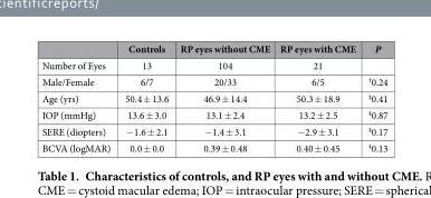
<table><thead><tr><td></td><td>Controls</td><td>RP eyes without CME</td><td>RP eyes with CME</td><td>P</td></tr></thead><tbody><tr><td>Number of Eyes</td><td>13</td><td>104</td><td>21</td><td></td></tr><tr><td>Male/Female</td><td>6/7</td><td>20/33</td><td>6/5</td><td><sup>†</sup>0.24</td></tr><tr><td>Age (yrs)</td><td>50.4 ± 13.6</td><td>46.9 ± 14.4</td><td>50.3 ± 18.9</td><td><sup>‡</sup>0.41</td></tr><tr><td>IOP (mmHg)</td><td>13.6 ± 3.0</td><td>13.1 ± 2.4</td><td>13.2 ± 2.5</td><td><sup>‡</sup>0.87</td></tr><tr><td>SERE (diopters)</td><td>−1.6 ± 2.1</td><td>−1.4 ± 3.1</td><td>−2.9 ± 3.1</td><td><sup>‡</sup>0.17</td></tr><tr><td>BCVA (logMAR)</td><td>0.0 ± 0.0</td><td>0.39 ± 0.48</td><td>0.40 ± 0.45</td><td><sup>‡</sup>0.13</td></tr></tbody></table>